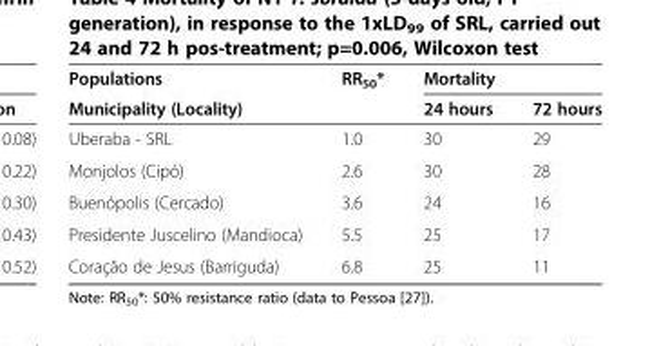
<table><thead><tr><td rowspan="2">Populations Municipality (Locality)</td><td rowspan="2">RR<sub>50</sub>*</td><td colspan="2">Mortality</td></tr><tr><td>24 hours</td><td>72 hours</td></tr></thead><tbody><tr><td>Uberaba - SRL</td><td>1.0</td><td>30</td><td>29</td></tr><tr><td>Monjolos (Cipó)</td><td>2.6</td><td>30</td><td>28</td></tr><tr><td>Buenópolis (Cercado)</td><td>3.6</td><td>24</td><td>16</td></tr><tr><td>Presidente Juscelino (Mandioca)</td><td>5.5</td><td>25</td><td>17</td></tr><tr><td>Coração de Jesus (Barriguda)</td><td>6.8</td><td>25</td><td>11</td></tr></tbody></table>